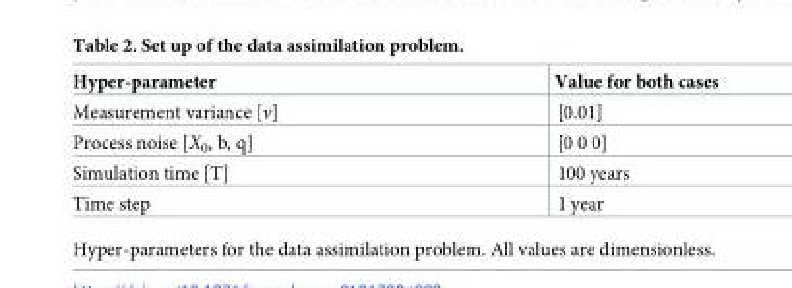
<table><thead><tr><td>Hyper-parameter</td><td>Value for both cases</td></tr></thead><tbody><tr><td>Measurement variance [ν]</td><td>[0.01]</td></tr><tr><td>Process noise [X<sub>0</sub>, b, q]</td><td>[0 0 0]</td></tr><tr><td>Simulation time [T]</td><td>100 years</td></tr><tr><td>Time step</td><td>1 year</td></tr></tbody></table>